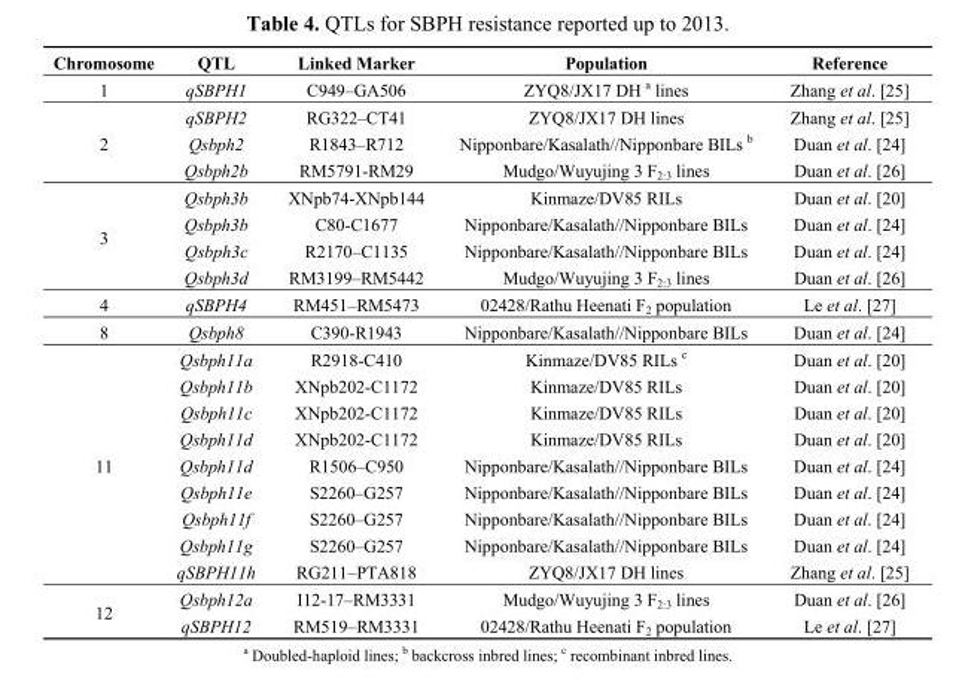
<table><thead><tr><td>Chromosome</td><td>QTL</td><td>Linked Marker</td><td>Population</td><td>Reference</td></tr></thead><tbody><tr><td>1</td><td>qSBPH1</td><td>C949–GA506</td><td>ZYQ8/JX17 DH a lines</td><td>Zhang et al. [25]</td></tr><tr><td rowspan="3">2</td><td>qSBPH2</td><td>RG322–CT41</td><td>ZYQ8/JX17 DH lines</td><td>Zhang et al. [25]</td></tr><tr><td>Qsbph2</td><td>R1843–R712</td><td>Nipponbare/Kasalath//Nipponbare BILs b</td><td>Duan et al. [24]</td></tr><tr><td>Qsbph2b</td><td>RM5791-RM29</td><td>Mudgo/Wuyujing 3 F<sub>2:3</sub> lines</td><td>Duan et al. [26]</td></tr><tr><td rowspan="4">3</td><td>Qsbph3b</td><td>XNpb74-XNpb144</td><td>Kinmaze/DV85 RILs</td><td>Duan et al. [20]</td></tr><tr><td>Qsbph3b</td><td>C80-C1677</td><td>Nipponbare/Kasalath//Nipponbare BILs</td><td>Duan et al. [24]</td></tr><tr><td>Qsbph3c</td><td>R2170–C1135</td><td>Nipponbare/Kasalath//Nipponbare BILs</td><td>Duan et al. [24]</td></tr><tr><td>Qsbph3d</td><td>RM3199–RM5442</td><td>Mudgo/Wuyujing 3 F<sub>2:3</sub> lines</td><td>Duan et al. [26]</td></tr><tr><td>4</td><td>qSBPH4</td><td>RM451–RM5473</td><td>02428/Rathu Heenati F<sub>2</sub> population</td><td>Le et al. [27]</td></tr><tr><td>8</td><td>Qsbph8</td><td>C390-R1943</td><td>Nipponbare/Kasalath//Nipponbare BILs</td><td>Duan et al. [24]</td></tr><tr><td rowspan="9">11</td><td>Qsbph11a</td><td>R2918-C410</td><td>Kinmaze/DV85 RILs c</td><td>Duan et al. [20]</td></tr><tr><td>Qsbph11b</td><td>XNpb202-C1172</td><td>Kinmaze/DV85 RILs</td><td>Duan et al. [20]</td></tr><tr><td>Qsbph11c</td><td>XNpb202-C1172</td><td>Kinmaze/DV85 RILs</td><td>Duan et al. [20]</td></tr><tr><td>Qsbph11d</td><td>XNpb202-C1172</td><td>Kinmaze/DV85 RILs</td><td>Duan et al. [20]</td></tr><tr><td>Qsbph11d</td><td>R1506–C950</td><td>Nipponbare/Kasalath//Nipponbare BILs</td><td>Duan et al. [24]</td></tr><tr><td>Qsbph11e</td><td>S2260–G257</td><td>Nipponbare/Kasalath//Nipponbare BILs</td><td>Duan et al. [24]</td></tr><tr><td>Qsbph11f</td><td>S2260–G257</td><td>Nipponbare/Kasalath//Nipponbare BILs</td><td>Duan et al. [24]</td></tr><tr><td>Qsbph11g</td><td>S2260–G257</td><td>Nipponbare/Kasalath//Nipponbare BILs</td><td>Duan et al. [24]</td></tr><tr><td>qSBPH11h</td><td>RG211–PTA818</td><td>ZYQ8/JX17 DH lines</td><td>Zhang et al. [25]</td></tr><tr><td rowspan="2">12</td><td>Qsbph12a</td><td>I12-17–RM3331</td><td>Mudgo/Wuyujing 3 F<sub>2:3</sub> lines</td><td>Duan et al. [26]</td></tr><tr><td>qSBPH12</td><td>RM519–RM3331</td><td>02428/Rathu Heenati F<sub>2</sub> population</td><td>Le et al. [27]</td></tr></tbody></table>